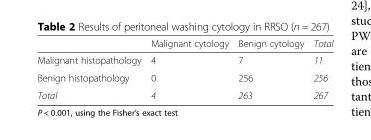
<table><thead><tr><td></td><td>Malignant cytology</td><td>Benign cytology</td><td>Total</td></tr></thead><tbody><tr><td>Malignant histopathology</td><td>4</td><td>7</td><td>11</td></tr><tr><td>Benign histopathology</td><td>0</td><td>256</td><td>256</td></tr><tr><td>Total</td><td>4</td><td>263</td><td>267</td></tr></tbody></table>